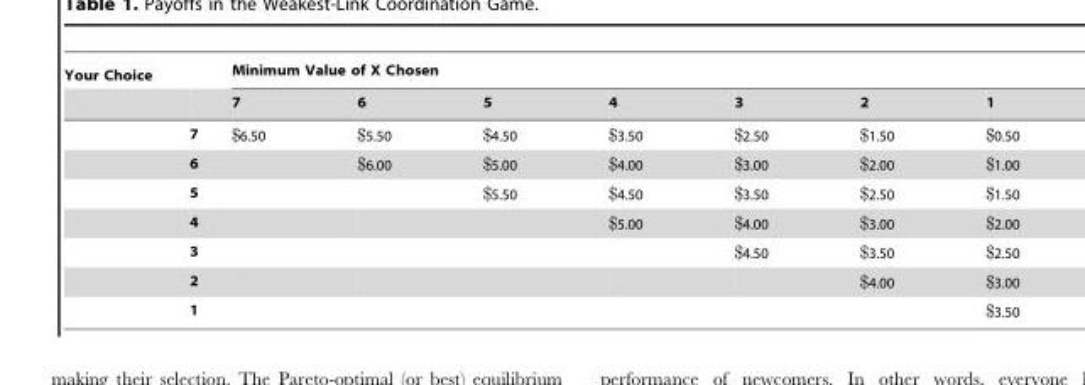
<table><thead><tr><td rowspan="2">Your Choice</td><td rowspan="2"></td><td colspan="7">Minimum Value of X Chosen</td></tr><tr><td>7</td><td>6</td><td>5</td><td>4</td><td>3</td><td>2</td><td>1</td></tr></thead><tbody><tr><td></td><td>7</td><td>$6.50</td><td>$5.50</td><td>$4.50</td><td>$3.50</td><td>$2.50</td><td>$1.50</td><td>$0.50</td></tr><tr><td></td><td>6</td><td></td><td>$6.00</td><td>$5.00</td><td>$4.00</td><td>$3.00</td><td>$2.00</td><td>$1.00</td></tr><tr><td></td><td>5</td><td></td><td></td><td>$5.50</td><td>$4.50</td><td>$3.50</td><td>$2.50</td><td>$1.50</td></tr><tr><td></td><td>4</td><td></td><td></td><td></td><td>$5.00</td><td>$4.00</td><td>$3.00</td><td>$2.00</td></tr><tr><td></td><td>3</td><td></td><td></td><td></td><td></td><td>$4.50</td><td>$3.50</td><td>$2.50</td></tr><tr><td></td><td>2</td><td></td><td></td><td></td><td></td><td></td><td>$4.00</td><td>$3.00</td></tr><tr><td></td><td>1</td><td></td><td></td><td></td><td></td><td></td><td></td><td>$3.50</td></tr></tbody></table>